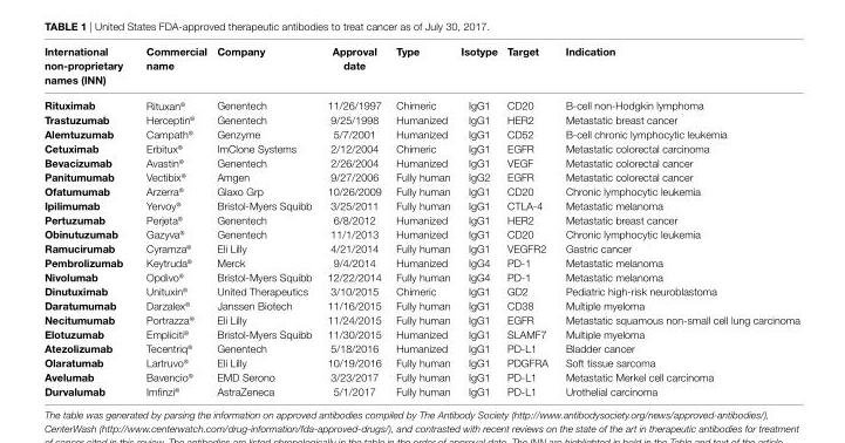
<table><thead><tr><td>international non-proprietary names (iNN)</td><td>Commercial name</td><td>Company</td><td>Approval date</td><td>Type</td><td>isotype</td><td>Target</td><td>indication</td></tr></thead><tbody><tr><td>Rituximab</td><td>Rituxan<sup>®</sup></td><td>Genentech</td><td>11/26/1997</td><td>Chimeric</td><td>IgG1</td><td>CD20</td><td>B-cell non-Hodgkin lymphoma</td></tr><tr><td>Trastuzumab</td><td>Herceptin<sup>®</sup></td><td>Genentech</td><td>9/25/1998</td><td>Humanized</td><td>IgG1</td><td>HER2</td><td>Metastatic breast cancer</td></tr><tr><td>Alemtuzumab</td><td>Campath<sup>®</sup></td><td>Genzyme</td><td>5/7/2001</td><td>Humanized</td><td>IgG1</td><td>CD52</td><td>B-cell chronic lymphocytic leukemia</td></tr><tr><td>Cetuximab</td><td>Erbitux<sup>®</sup></td><td>ImClone Systems</td><td>2/12/2004</td><td>Chimeric</td><td>IgG1</td><td>EGFR</td><td>Metastatic colorectal carcinoma</td></tr><tr><td>bevacizumab</td><td>Avastin<sup>®</sup></td><td>Genentech</td><td>2/26/2004</td><td>Humanized</td><td>IgG1</td><td>VEGF</td><td>Metastatic colorectal cancer</td></tr><tr><td>Panitumumab</td><td>Vectibix<sup>®</sup></td><td>Amgen</td><td>9/27/2006</td><td>Fully human</td><td>IgG2</td><td>EGFR</td><td>Metastatic colorectal cancer</td></tr><tr><td>Ofatumumab</td><td>Arzerra<sup>®</sup></td><td>Glaxo Grp</td><td>10/26/2009</td><td>Fully human</td><td>IgG1</td><td>CD20</td><td>Chronic lymphocytic leukemia</td></tr><tr><td>ipilimumab</td><td>Yervoy<sup>®</sup></td><td>Bristol-Myers Squibb</td><td>3/25/2011</td><td>Fully human</td><td>IgG1</td><td>CTLA-4</td><td>Metastatic melanoma</td></tr><tr><td>Pertuzumab</td><td>Perjeta<sup>®</sup></td><td>Genentech</td><td>6/8/2012</td><td>Humanized</td><td>IgG1</td><td>HER2</td><td>Metastatic breast cancer</td></tr><tr><td>Obinutuzumab</td><td>Gazyva<sup>®</sup></td><td>Genentech</td><td>11/1/2013</td><td>Humanized</td><td>IgG1</td><td>CD20</td><td>Chronic lymphocytic leukemia</td></tr><tr><td>Ramucirumab</td><td>Cyramza<sup>®</sup></td><td>Eli Lilly</td><td>4/21/2014</td><td>Fully human</td><td>IgG1</td><td>VEGFR2</td><td>Gastric cancer</td></tr><tr><td>Pembrolizumab</td><td>Keytruda<sup>®</sup></td><td>Merck</td><td>9/4/2014</td><td>Humanized</td><td>IgG4</td><td>PD-1</td><td>Metastatic melanoma</td></tr><tr><td>Nivolumab</td><td>Opdivo<sup>®</sup></td><td>Bristol-Myers Squibb</td><td>12/22/2014</td><td>Fully human</td><td>IgG4</td><td>PD-1</td><td>Metastatic melanoma</td></tr><tr><td>Dinutuximab</td><td>Unituxin<sup>®</sup></td><td>United Therapeutics</td><td>3/10/2015</td><td>Chimeric</td><td>IgG1</td><td>GD2</td><td>Pediatric high-risk neuroblastoma</td></tr><tr><td>Daratumumab</td><td>Darzalex<sup>®</sup></td><td>Janssen Biotech</td><td>11/16/2015</td><td>Fully human</td><td>IgG1</td><td>CD38</td><td>Multiple myeloma</td></tr><tr><td>Necitumumab</td><td>Portrazza<sup>®</sup></td><td>Eli Lilly</td><td>11/24/2015</td><td>Fully human</td><td>IgG1</td><td>EGFR</td><td>Metastatic squamous non-small cell lung carcinoma</td></tr><tr><td>elotuzumab</td><td>Empliciti<sup>®</sup></td><td>Bristol-Myers Squibb</td><td>11/30/2015</td><td>Humanized</td><td>IgG1</td><td>SLAMF7</td><td>Multiple myeloma</td></tr><tr><td>Atezolizumab</td><td>Tecentriq<sup>®</sup></td><td>Genentech</td><td>5/18/2016</td><td>Humanized</td><td>IgG1</td><td>PD-L1</td><td>Bladder cancer</td></tr><tr><td>Olaratumab</td><td>Lartruvo<sup>®</sup></td><td>Eli Lilly</td><td>10/19/2016</td><td>Fully human</td><td>IgG1</td><td>PDGFRA</td><td>Soft tissue sarcoma</td></tr><tr><td>Avelumab</td><td>Bavencio<sup>®</sup></td><td>EMD Serono</td><td>3/23/2017</td><td>Fully human</td><td>IgG1</td><td>PD-L1</td><td>Metastatic Merkel cell carcinoma</td></tr><tr><td>Durvalumab</td><td>Imfinzi<sup>®</sup></td><td>AstraZeneca</td><td>5/1/2017</td><td>Fully human</td><td>IgG1</td><td>PD-L1</td><td>Urothelial carcinoma</td></tr></tbody></table>